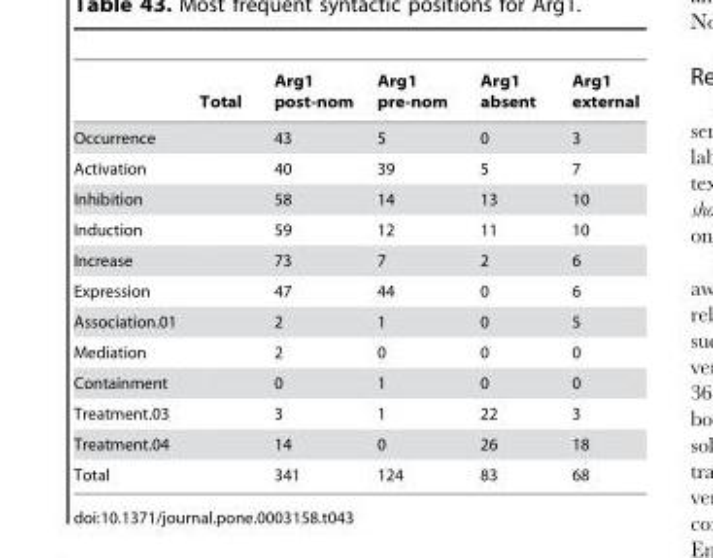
<table><thead><tr><td></td><td>Total</td><td>Arg1 post-nom</td><td>Arg1 pre-nom</td><td>Arg1 absent</td><td>Arg1 external</td></tr></thead><tbody><tr><td>Occurrence</td><td></td><td>43</td><td>5</td><td>0</td><td>3</td></tr><tr><td>Activation</td><td></td><td>40</td><td>39</td><td>5</td><td>7</td></tr><tr><td>Inhibition</td><td></td><td>58</td><td>14</td><td>13</td><td>10</td></tr><tr><td>Induction</td><td></td><td>59</td><td>12</td><td>11</td><td>10</td></tr><tr><td>Increase</td><td></td><td>73</td><td>7</td><td>2</td><td>6</td></tr><tr><td>Expression</td><td></td><td>47</td><td>44</td><td>0</td><td>6</td></tr><tr><td>Association.01</td><td></td><td>2</td><td>1</td><td>0</td><td>5</td></tr><tr><td>Mediation</td><td></td><td>2</td><td>0</td><td>0</td><td>0</td></tr><tr><td>Containment</td><td></td><td>0</td><td>1</td><td>0</td><td>0</td></tr><tr><td>Treatment.03</td><td></td><td>3</td><td>1</td><td>22</td><td>3</td></tr><tr><td>Treatment.04</td><td></td><td>14</td><td>0</td><td>26</td><td>18</td></tr><tr><td>Total</td><td></td><td>341</td><td>124</td><td>83</td><td>68</td></tr></tbody></table>